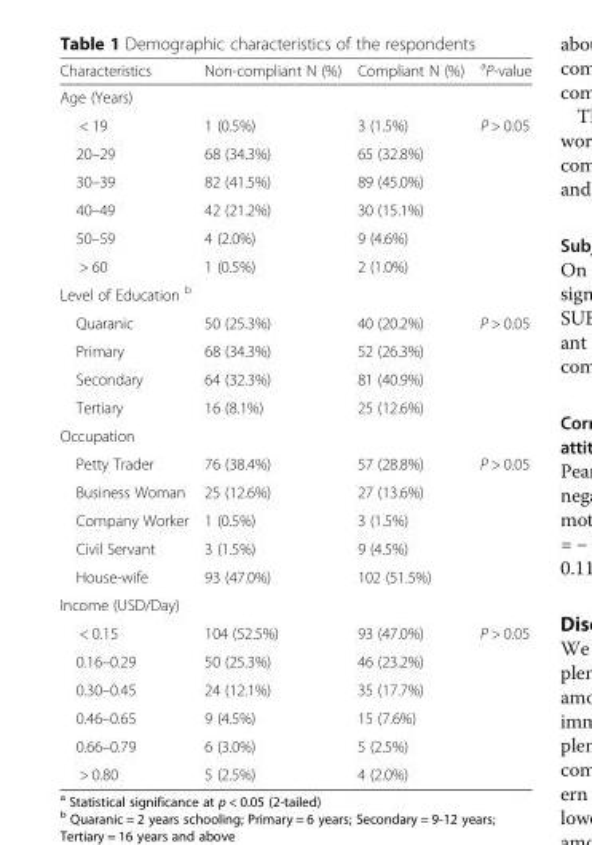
<table><thead><tr><td>Characteristics</td><td>Non-compliant N (%)</td><td>Compliant N (%)</td><td><sup>a</sup>P-value</td></tr></thead><tbody><tr><td colspan="4">Age (Years)</td></tr><tr><td>&lt; 19</td><td>1 (0.5%)</td><td>3 (1.5%)</td><td rowspan="6">P &gt; 0.05</td></tr><tr><td>20–29</td><td>68 (34.3%)</td><td>65 (32.8%)</td></tr><tr><td>30–39</td><td>82 (41.5%)</td><td>89 (45.0%)</td></tr><tr><td>40–49</td><td>42 (21.2%)</td><td>30 (15.1%)</td></tr><tr><td>50–59</td><td>4 (2.0%)</td><td>9 (4.6%)</td></tr><tr><td>&gt; 60</td><td>1 (0.5%)</td><td>2 (1.0%)</td></tr><tr><td colspan="4">Level of Education <sup>b</sup></td></tr><tr><td>Quaranic</td><td>50 (25.3%)</td><td>40 (20.2%)</td><td rowspan="4">P &gt; 0.05</td></tr><tr><td>Primary</td><td>68 (34.3%)</td><td>52 (26.3%)</td></tr><tr><td>Secondary</td><td>64 (32.3%)</td><td>81 (40.9%)</td></tr><tr><td>Tertiary</td><td>16 (8.1%)</td><td>25 (12.6%)</td></tr><tr><td colspan="4">Occupation</td></tr><tr><td>Petty Trader</td><td>76 (38.4%)</td><td>57 (28.8%)</td><td rowspan="5">P &gt; 0.05</td></tr><tr><td>Business Woman</td><td>25 (12.6%)</td><td>27 (13.6%)</td></tr><tr><td>Company Worker</td><td>1 (0.5%)</td><td>3 (1.5%)</td></tr><tr><td>Civil Servant</td><td>3 (1.5%)</td><td>9 (4.5%)</td></tr><tr><td>House-wife</td><td>93 (47.0%)</td><td>102 (51.5%)</td></tr><tr><td colspan="4">Income (USD/Day)</td></tr><tr><td>&lt; 0.15</td><td>104 (52.5%)</td><td>93 (47.0%)</td><td rowspan="6">P &gt; 0.05</td></tr><tr><td>0.16–0.29</td><td>50 (25.3%)</td><td>46 (23.2%)</td></tr><tr><td>0.30–0.45</td><td>24 (12.1%)</td><td>35 (17.7%)</td></tr><tr><td>0.46–0.65</td><td>9 (4.5%)</td><td>15 (7.6%)</td></tr><tr><td>0.66–0.79</td><td>6 (3.0%)</td><td>5 (2.5%)</td></tr><tr><td>&gt; 0.80</td><td>5 (2.5%)</td><td>4 (2.0%)</td></tr></tbody></table>